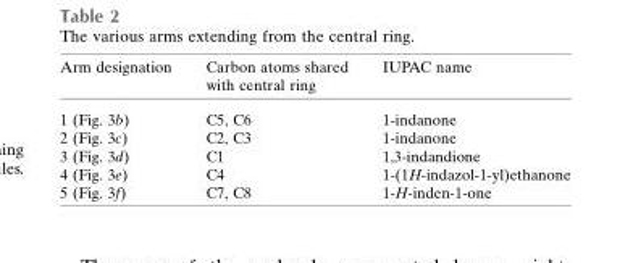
<table><thead><tr><td>Arm designation</td><td>Carbon atoms shared with central ring</td><td>IUPAC name</td></tr></thead><tbody><tr><td>1 (Fig. 3b)</td><td>C5, C6</td><td>1-indanone</td></tr><tr><td>2 (Fig. 3c)</td><td>C2, C3</td><td>1-indanone</td></tr><tr><td>3 (Fig. 3d)</td><td>C1</td><td>1,3-indandione</td></tr><tr><td>4 (Fig. 3e)</td><td>C4</td><td>1-(1H-indazol-1-yl)ethanone</td></tr><tr><td>5 (Fig. 3f)</td><td>C7, C8</td><td>1-H-inden-1-one</td></tr></tbody></table>